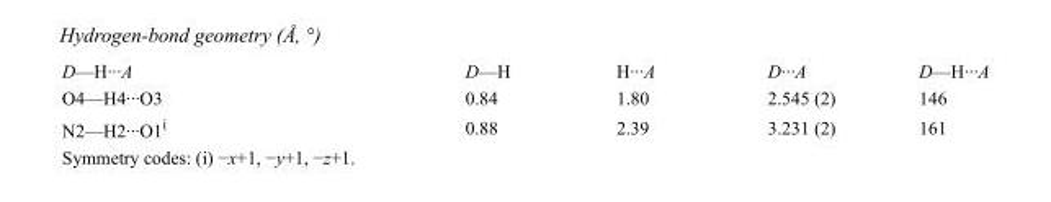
<table><tbody><tr><td>D—H···A</td><td>D—H</td><td>H···A</td><td>D···A</td><td>D—H···A</td></tr><tr><td>O4—H4···O3</td><td>0.84</td><td>1.80</td><td>2.545 (2)</td><td>146</td></tr><tr><td>N2—H2···O1<sup>i</sup></td><td>0.88</td><td>2.39</td><td>3.231 (2)</td><td>161</td></tr></tbody></table>